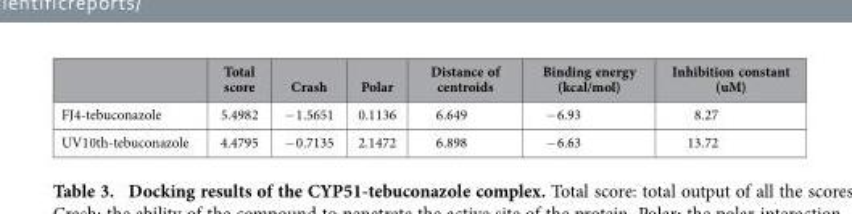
<table><thead><tr><td></td><td>Total score</td><td>Crash</td><td>Polar</td><td>Distance of centroids</td><td>Binding energy (kcal/mol)</td><td>Inhibition constant (uM)</td></tr></thead><tbody><tr><td>FJ4-tebuconazole</td><td>5.4982</td><td>− 1.5651</td><td>0.1136</td><td>6.649</td><td>− 6.93</td><td>8.27</td></tr><tr><td>UV10th-tebuconazole</td><td>4.4795</td><td>− 0.7135</td><td>2.1472</td><td>6.898</td><td>− 6.63</td><td>13.72</td></tr></tbody></table>